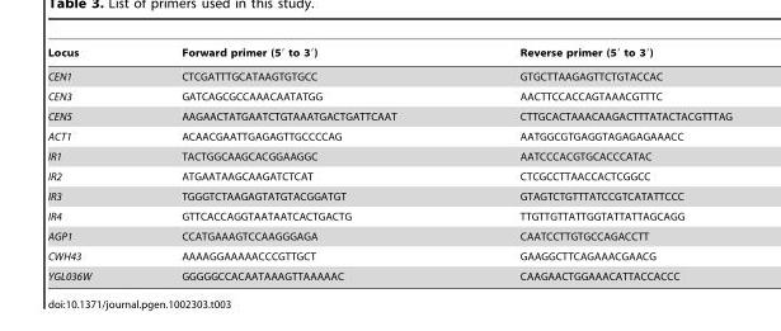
<table><thead><tr><td>Locus</td><td>Forward primer (5′ to 3′)</td><td>Reverse primer (5′ to 3′)</td></tr></thead><tbody><tr><td>CEN1</td><td>CTCGATTTGCATAAGTGTGCC</td><td>GTGCTTAAGAGTTCTGTACCAC</td></tr><tr><td>CEN3</td><td>GATCAGCGCCAAACAATATGG</td><td>AACTTCCACCAGTAAACGTTTC</td></tr><tr><td>CEN5</td><td>AAGAACTATGAATCTGTAAATGACTGATTCAAT</td><td>CTTGCACTAAACAAGACTTTATACTACGTTTAG</td></tr><tr><td>ACT1</td><td>ACAACGAATTGAGAGTTGCCCCAG</td><td>AATGGCGTGAGGTAGAGAGAAACC</td></tr><tr><td>IR1</td><td>TACTGGCAAGCACGGAAGGC</td><td>AATCCCACGTGCACCCATAC</td></tr><tr><td>IR2</td><td>ATGAATAAGCAAGATCTCAT</td><td>CTCGCCTTAACCACTCGGCC</td></tr><tr><td>IR3</td><td>TGGGTCTAAGAGTATGTACGGATGT</td><td>GTAGTCTGTTTATCCGTCATATTCCC</td></tr><tr><td>IR4</td><td>GTTCACCAGGTAATAATCACTGACTG</td><td>TTGTTGTTATTGGTATTATTAGCAGG</td></tr><tr><td>AGP1</td><td>CCATGAAAGTCCAAGGGAGA</td><td>CAATCCTTGTGCCAGACCTT</td></tr><tr><td>CWH43</td><td>AAAAGGAAAAACCCGTTGCT</td><td>GAAGGCTTCAGAAACGAACG</td></tr><tr><td>YGL036W</td><td>GGGGGCCACAATAAAGTTAAAAAC</td><td>CAAGAACTGGAAACATTACCACCC</td></tr></tbody></table>